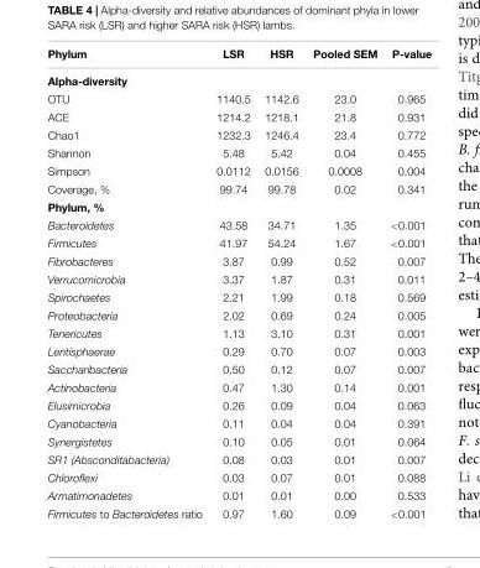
<table><thead><tr><td>Phylum</td><td>LSR</td><td>HSR</td><td>Pooled SEM</td><td>P-value</td></tr></thead><tbody><tr><td colspan="5">Alpha-diversity</td></tr><tr><td>OTU</td><td>1140.5</td><td>1142.6</td><td>23.0</td><td>0.965</td></tr><tr><td>ACE</td><td>1214.2</td><td>1218.1</td><td>21.8</td><td>0.931</td></tr><tr><td>Chao1</td><td>1232.3</td><td>1246.4</td><td>23.4</td><td>0.772</td></tr><tr><td>Shannon</td><td>5.48</td><td>5.42</td><td>0.04</td><td>0.455</td></tr><tr><td>Simpson</td><td>0.0112</td><td>0.0156</td><td>0.0008</td><td>0.004</td></tr><tr><td>Coverage, %</td><td>99.74</td><td>99.78</td><td>0.02</td><td>0.341</td></tr><tr><td colspan="5">Phylum, %</td></tr><tr><td>Bacteroidetes</td><td>43.58</td><td>34.71</td><td>1.35</td><td>&lt;0.001</td></tr><tr><td>Firmicutes</td><td>41.97</td><td>54.24</td><td>1.67</td><td>&lt;0.001</td></tr><tr><td>Fibrobacteres</td><td>3.87</td><td>0.99</td><td>0.52</td><td>0.007</td></tr><tr><td>Verrucomicrobia</td><td>3.37</td><td>1.87</td><td>0.31</td><td>0.011</td></tr><tr><td>Spirochaetes</td><td>2.21</td><td>1.99</td><td>0.18</td><td>0.569</td></tr><tr><td>Proteobacteria</td><td>2.02</td><td>0.69</td><td>0.24</td><td>0.005</td></tr><tr><td>Tenericutes</td><td>1.13</td><td>3.10</td><td>0.31</td><td>0.001</td></tr><tr><td>Lentisphaerae</td><td>0.29</td><td>0.70</td><td>0.07</td><td>0.003</td></tr><tr><td>Saccharibacteria</td><td>0.50</td><td>0.12</td><td>0.07</td><td>0.007</td></tr><tr><td>Actinobacteria</td><td>0.47</td><td>1.30</td><td>0.14</td><td>0.001</td></tr><tr><td>Elusimicrobia</td><td>0.26</td><td>0.09</td><td>0.04</td><td>0.063</td></tr><tr><td>Cyanobacteria</td><td>0.11</td><td>0.04</td><td>0.04</td><td>0.391</td></tr><tr><td>Synergistetes</td><td>0.10</td><td>0.05</td><td>0.01</td><td>0.064</td></tr><tr><td>SR1 (Absconditabacteria)</td><td>0.08</td><td>0.03</td><td>0.01</td><td>0.007</td></tr><tr><td>Chloroflexi</td><td>0.03</td><td>0.07</td><td>0.01</td><td>0.088</td></tr><tr><td>Armatimonadetes</td><td>0.01</td><td>0.01</td><td>0.00</td><td>0.533</td></tr><tr><td>Firmicutes to Bacteroidetes ratio</td><td>0.97</td><td>1.60</td><td>0.09</td><td>&lt;0.001</td></tr></tbody></table>